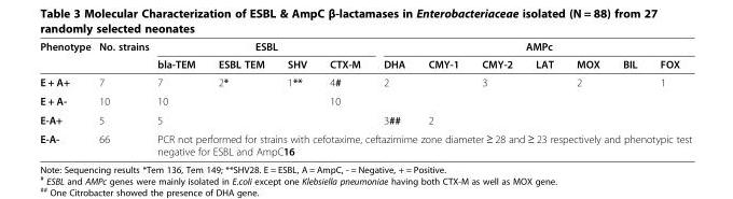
<table><thead><tr><td rowspan="2">Phenotype</td><td rowspan="2">No. strains</td><td colspan="4">ESBL</td><td colspan="7">AMPc</td></tr><tr><td>bla-TEM</td><td>ESBL TEM</td><td>SHV</td><td>CTX-M</td><td>DHA</td><td>CMY-1</td><td>CMY-2</td><td>LAT</td><td>MOX</td><td>BIL</td><td>FOX</td></tr></thead><tbody><tr><td>E + A+</td><td>7</td><td>7</td><td>2*</td><td>1**</td><td>4#</td><td>2</td><td></td><td>3</td><td></td><td>2</td><td></td><td>1</td></tr><tr><td>E + A-</td><td>10</td><td>10</td><td></td><td></td><td>10</td><td></td><td></td><td></td><td></td><td></td><td></td><td></td></tr><tr><td>E-A+</td><td>5</td><td>5</td><td></td><td></td><td></td><td>3##</td><td>2</td><td></td><td></td><td></td><td></td><td></td></tr><tr><td>E-A-</td><td>66</td><td colspan="11">PCR not performed for strains with cefotaxime, ceftazimime zone diameter ≥ 28 and ≥ 23 respectively and phenotypic test negative for ESBL and AmpC16</td></tr></tbody></table>